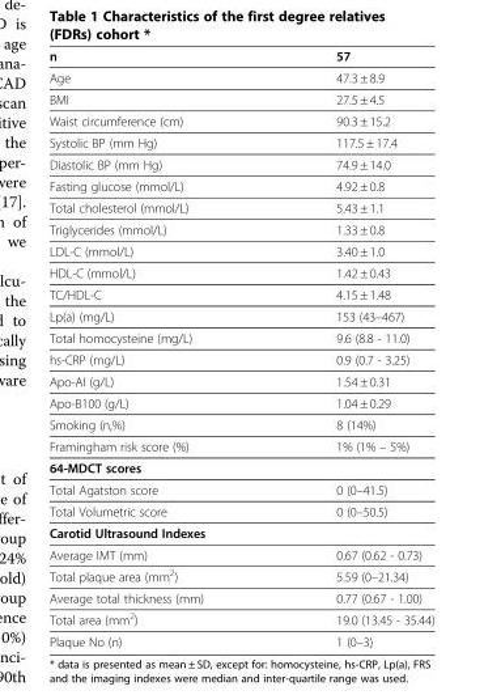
<table><thead><tr><td>n</td><td>57</td></tr></thead><tbody><tr><td>Age</td><td>47.3 ± 8.9</td></tr><tr><td>BMI</td><td>27.5 ± 4.5</td></tr><tr><td>Waist circumference (cm)</td><td>90.3 ± 15.2</td></tr><tr><td>Systolic BP (mm Hg)</td><td>117.5 ± 17.4</td></tr><tr><td>Diastolic BP (mm Hg)</td><td>74.9 ± 14.0</td></tr><tr><td>Fasting glucose (mmol/L)</td><td>4.92 ± 0.8</td></tr><tr><td>Total cholesterol (mmol/L)</td><td>5.43 ± 1.1</td></tr><tr><td>Triglycerides (mmol/L)</td><td>1.33 ± 0.8</td></tr><tr><td>LDL-C (mmol/L)</td><td>3.40 ± 1.0</td></tr><tr><td>HDL-C (mmol/L)</td><td>1.42 ± 0.43</td></tr><tr><td>TC/HDL-C</td><td>4.15 ± 1.48</td></tr><tr><td>Lp(a) (mg/L)</td><td>153 (43–467)</td></tr><tr><td>Total homocysteine (mg/L)</td><td>9.6 (8.8 - 11.0)</td></tr><tr><td>hs-CRP (mg/L)</td><td>0.9 (0.7 - 3.25)</td></tr><tr><td>Apo-AI (g/L)</td><td>1.54 ± 0.31</td></tr><tr><td>Apo-B100 (g/L)</td><td>1.04 ± 0.29</td></tr><tr><td>Smoking (n,%)</td><td>8 (14%)</td></tr><tr><td>Framingham risk score (%)</td><td>1% (1% – 5%)</td></tr><tr><td colspan="2">64-MDCT scores</td></tr><tr><td>Total Agatston score</td><td>0 (0–41.5)</td></tr><tr><td>Total Volumetric score</td><td>0 (0–50.5)</td></tr><tr><td colspan="2">Carotid Ultrasound Indexes</td></tr><tr><td>Average IMT (mm)</td><td>0.67 (0.62 - 0.73)</td></tr><tr><td>Total plaque area (mm<sup>2</sup>)</td><td>5.59 (0–21.34)</td></tr><tr><td>Average total thickness (mm)</td><td>0.77 (0.67 - 1.00)</td></tr><tr><td>Total area (mm<sup>2</sup>)</td><td>19.0 (13.45 - 35.44)</td></tr><tr><td>Plaque No (n)</td><td>1 (0–3)</td></tr></tbody></table>